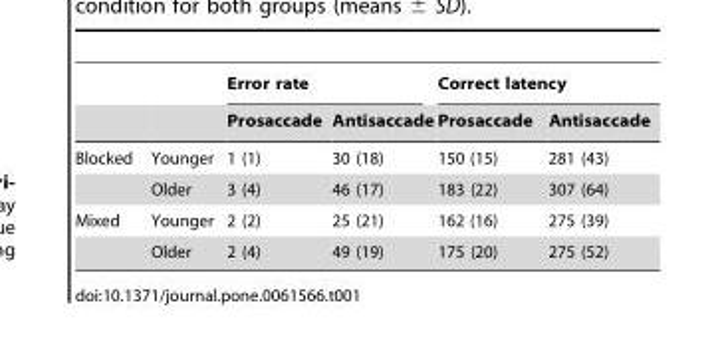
<table><thead><tr><td rowspan="2"></td><td rowspan="2"></td><td colspan="2">Error rate</td><td colspan="2">Correct latency</td></tr><tr><td>Prosaccade</td><td>Antisaccade</td><td>Prosaccade</td><td>Antisaccade</td></tr></thead><tbody><tr><td rowspan="2">Blocked</td><td>Younger</td><td>1 (1)</td><td>30 (18)</td><td>150 (15)</td><td>281 (43)</td></tr><tr><td>Older</td><td>3 (4)</td><td>46 (17)</td><td>183 (22)</td><td>307 (64)</td></tr><tr><td rowspan="2">Mixed</td><td>Younger</td><td>2 (2)</td><td>25 (21)</td><td>162 (16)</td><td>275 (39)</td></tr><tr><td>Older</td><td>2 (4)</td><td>49 (19)</td><td>175 (20)</td><td>275 (52)</td></tr></tbody></table>